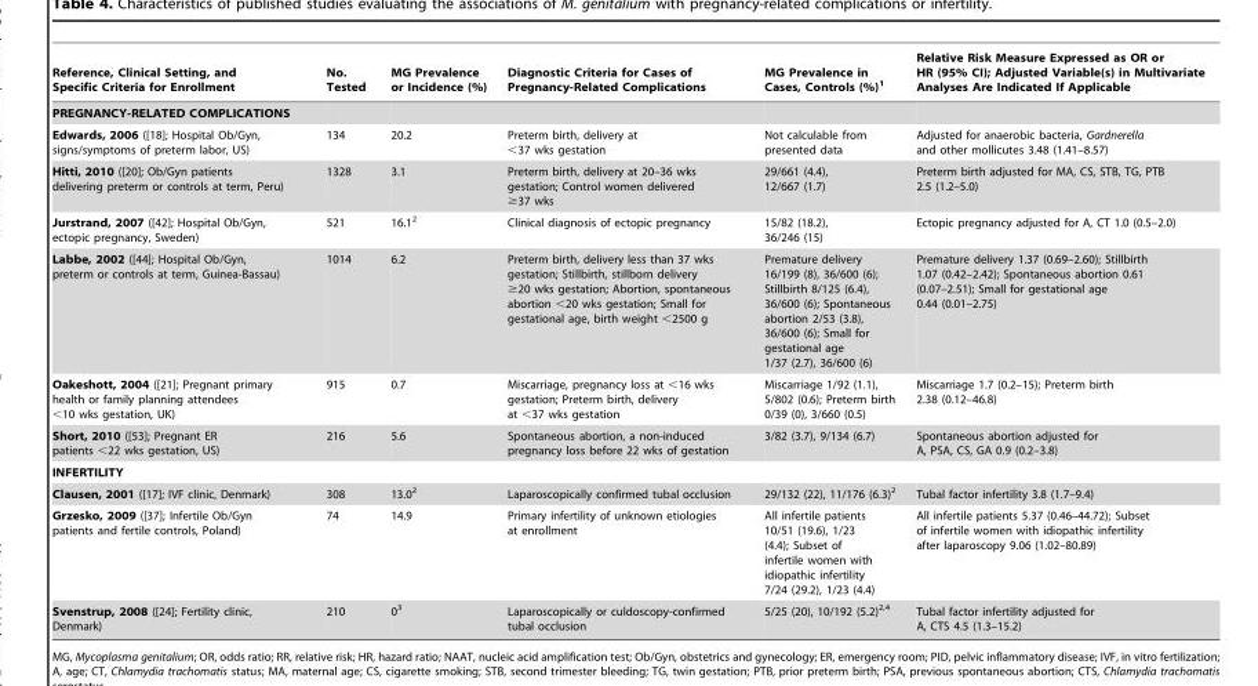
<table><thead><tr><td>Reference, Clinical Setting, and Specific Criteria for Enrollment</td><td>No. Tested</td><td>MG Prevalence or Incidence (%)</td><td>Diagnostic Criteria for Cases of Pregnancy-Related Complications</td><td>MG Prevalence in Cases, Controls (%)<sup>1</sup></td><td>Relative Risk Measure Expressed as OR or HR (95% CI); Adjusted Variable(s) in Multivariate Analyses Are Indicated If Applicable</td></tr></thead><tbody><tr><td colspan="6">PREGNANCY-RELATED COMPLICATIONS</td></tr><tr><td>Edwards, 2006 ([18]; Hospital Ob/Gyn, signs/symptoms of preterm labor, US)</td><td>134</td><td>20.2</td><td>Preterm birth, delivery at &lt;37 wks gestation</td><td>Not calculable from presented data</td><td>Adjusted for anaerobic bacteria, Gardnerella and other mollicutes 3.48 (1.41–8.57)</td></tr><tr><td>Hitti, 2010 ([20]; Ob/Gyn patients delivering preterm or controls at term, Peru)</td><td>1328</td><td>3.1</td><td>Preterm birth, delivery at 20–36 wks gestation; Control women delivered ≥37 wks</td><td>29/661 (4.4), 12/667 (1.7)</td><td>Preterm birth adjusted for MA, CS, STB, TG, PTB 2.5 (1.2–5.0)</td></tr><tr><td>Jurstrand, 2007 ([42]; Hospital Ob/Gyn, ectopic pregnancy, Sweden)</td><td>521</td><td>16.1<sup>2</sup></td><td>Clinical diagnosis of ectopic pregnancy</td><td>15/82 (18.2), 36/246 (15)</td><td>Ectopic pregnancy adjusted for A, CT 1.0 (0.5–2.0)</td></tr><tr><td>Labbe, 2002 ([44]; Hospital Ob/Gyn, preterm or controls at term, Guinea-Bassau)</td><td>1014</td><td>6.2</td><td>Preterm birth, delivery less than 37 wks gestation; Stillbirth, stillborn delivery ≥20 wks gestation; Abortion, spontaneous abortion &lt;20 wks gestation; Small for gestational age, birth weight &lt;2500 g</td><td>Premature delivery 16/199 (8), 36/600 (6); Stillbirth 8/125 (6.4), 36/600 (6); Spontaneous abortion 2/53 (3.8), 36/600 (6); Small for gestational age 1/37 (2.7), 36/600 (6)</td><td>Premature delivery 1.37 (0.69–2.60); Stillbirth 1.07 (0.42–2.42); Spontaneous abortion 0.61 (0.07–2.51); Small for gestational age 0.44 (0.01–2.75)</td></tr><tr><td>Oakeshott, 2004 ([21]; Pregnant primary health or family planning attendees &lt;10 wks gestation, UK)</td><td>915</td><td>0.7</td><td>Miscarriage, pregnancy loss at &lt;16 wks gestation; Preterm birth, delivery at &lt;37 wks gestation</td><td>Miscarriage 1/92 (1.1), 5/802 (0.6); Preterm birth 0/39 (0), 3/660 (0.5)</td><td>Miscarriage 1.7 (0.2–15); Preterm birth 2.38 (0.12–46.8)</td></tr><tr><td>Short, 2010 ([53]; Pregnant ER patients &lt;22 wks gestation, US)</td><td>216</td><td>5.6</td><td>Spontaneous abortion, a non-induced pregnancy loss before 22 wks of gestation</td><td>3/82 (3.7), 9/134 (6.7)</td><td>Spontaneous abortion adjusted for A, PSA, CS, GA 0.9 (0.2–3.8)</td></tr><tr><td colspan="6">INFERTILITY</td></tr><tr><td>Clausen, 2001 ([17]; IVF clinic, Denmark)</td><td>308</td><td>13.0<sup>2</sup></td><td>Laparoscopically confirmed tubal occlusion</td><td>29/132 (22), 11/176 (6.3)<sup>2</sup></td><td>Tubal factor infertility 3.8 (1.7–9.4)</td></tr><tr><td>Grzesko, 2009 ([37]; Infertile Ob/Gyn patients and fertile controls, Poland)</td><td>74</td><td>14.9</td><td>Primary infertility of unknown etiologies at enrollment</td><td>All infertile patients 10/51 (19.6), 1/23 (4.4); Subset of infertile women with idiopathic infertility 7/24 (29.2), 1/23 (4.4)</td><td>All infertile patients 5.37 (0.46–44.72); Subset of infertile women with idiopathic infertility after laparoscopy 9.06 (1.02–80.89)</td></tr><tr><td>Svenstrup, 2008 ([24]; Fertility clinic, Denmark)</td><td>210</td><td>0<sup>3</sup></td><td>Laparoscopically or culdoscopy-confirmed tubal occlusion</td><td>5/25 (20), 10/192 (5.2)<sup>2,</sup>4</td><td>Tubal factor infertility adjusted for A, CTS 4.5 (1.3–15.2)</td></tr></tbody></table>